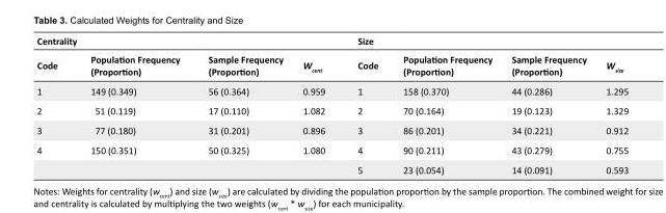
<table><tbody><tr><td>Centrality</td><td colspan="7">Size</td></tr><tr><td>Code</td><td>Population Frequency (Proportion)</td><td>Sample Frequency (Proportion)</td><td>W<sub>cent</sub></td><td>Code</td><td>Population Frequency (Proportion)</td><td>Sample Frequency (Proportion)</td><td>W<sub>size</sub></td></tr><tr><td>1</td><td>149 (0.349)</td><td>56 (0.364)</td><td>0.959</td><td>1</td><td>158 (0.370)</td><td>44 (0.286)</td><td>1.295</td></tr><tr><td>2</td><td>51 (0.119)</td><td>17 (0.110)</td><td>1.082</td><td>2</td><td>70 (0.164)</td><td>19 (0.123)</td><td>1.329</td></tr><tr><td>3</td><td>77 (0.180)</td><td>31 (0.201)</td><td>0.896</td><td>3</td><td>86 (0.201)</td><td>34 (0.221)</td><td>0.912</td></tr><tr><td rowspan="2">4</td><td>150 (0.351)</td><td>50 (0.325)</td><td>1.080</td><td>4</td><td>90 (0.211)</td><td>43 (0.279)</td><td>0.755</td></tr><tr><td></td><td></td><td></td><td>5</td><td>23 (0.054)</td><td>14 (0.091)</td><td>0.593</td></tr></tbody></table>